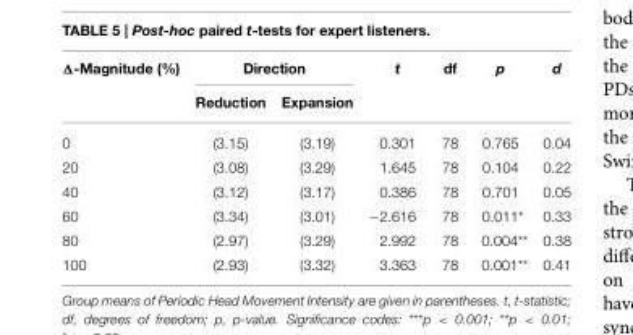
<table><thead><tr><td rowspan="2">Δ-Magnitude (%)</td><td colspan="2">Direction</td><td rowspan="2">t</td><td rowspan="2">df</td><td rowspan="2">p</td><td rowspan="2">d</td></tr><tr><td>Reduction</td><td>Expansion</td></tr></thead><tbody><tr><td>0</td><td>(3.15)</td><td>(3.19)</td><td>0.301</td><td>78</td><td>0.765</td><td>0.04</td></tr><tr><td>20</td><td>(3.08)</td><td>(3.29)</td><td>1.645</td><td>78</td><td>0.104</td><td>0.22</td></tr><tr><td>40</td><td>(3.12)</td><td>(3.17)</td><td>0.386</td><td>78</td><td>0.701</td><td>0.05</td></tr><tr><td>60</td><td>(3.34)</td><td>(3.01)</td><td>−2.616</td><td>78</td><td>0.011*</td><td>0.33</td></tr><tr><td>80</td><td>(2.97)</td><td>(3.29)</td><td>2.992</td><td>78</td><td>0.004**</td><td>0.38</td></tr><tr><td>100</td><td>(2.93)</td><td>(3.32)</td><td>3.363</td><td>78</td><td>0.001**</td><td>0.41</td></tr></tbody></table>